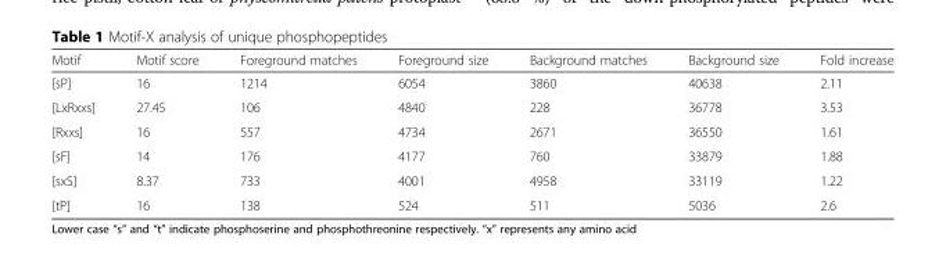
<table><thead><tr><td>Motif</td><td>Motif score</td><td>Foreground matches</td><td>Foreground size</td><td>Background matches</td><td>Background size</td><td>Fold increase</td></tr></thead><tbody><tr><td>[sP]</td><td>16</td><td>1214</td><td>6054</td><td>3860</td><td>40638</td><td>2.11</td></tr><tr><td>[LxRxxs]</td><td>27.45</td><td>106</td><td>4840</td><td>228</td><td>36778</td><td>3.53</td></tr><tr><td>[Rxxs]</td><td>16</td><td>557</td><td>4734</td><td>2671</td><td>36550</td><td>1.61</td></tr><tr><td>[sF]</td><td>14</td><td>176</td><td>4177</td><td>760</td><td>33879</td><td>1.88</td></tr><tr><td>[sxS]</td><td>8.37</td><td>733</td><td>4001</td><td>4958</td><td>33119</td><td>1.22</td></tr><tr><td>[tP]</td><td>16</td><td>138</td><td>524</td><td>511</td><td>5036</td><td>2.6</td></tr></tbody></table>